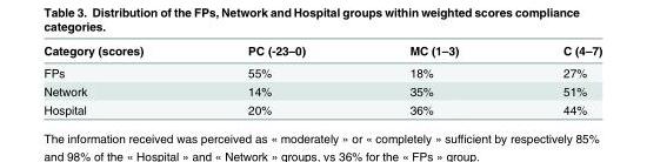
<table><thead><tr><td>Category (scores)</td><td>PC (-23–0)</td><td>MC (1–3)</td><td>C (4–7)</td></tr></thead><tbody><tr><td>FPs</td><td>55%</td><td>18%</td><td>27%</td></tr><tr><td>Network</td><td>14%</td><td>35%</td><td>51%</td></tr><tr><td>Hospital</td><td>20%</td><td>36%</td><td>44%</td></tr></tbody></table>